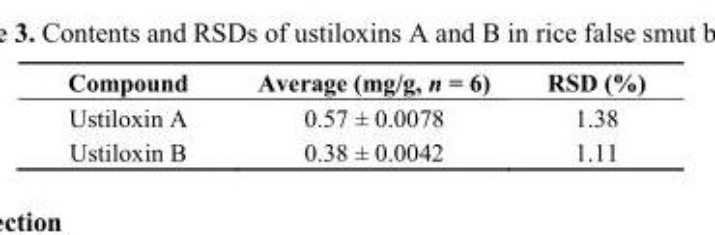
<table><thead><tr><td>Compound</td><td>Average (mg/g, n = 6)</td><td>RSD (%)</td></tr></thead><tbody><tr><td>Ustiloxin A</td><td>0.57 ± 0.0078</td><td>1.38</td></tr><tr><td>Ustiloxin B</td><td>0.38 ± 0.0042</td><td>1.11</td></tr></tbody></table>